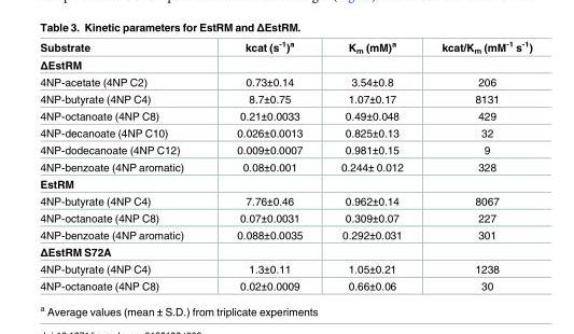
<table><thead><tr><td>Substrate</td><td>kcat (s<sup>-1</sup>)<sup>a</sup></td><td>K<sub>m</sub> (mM)<sup>a</sup></td><td>kcat/K<sub>m</sub> (mM<sup>-1</sup> s<sup>-1</sup>)</td></tr></thead><tbody><tr><td colspan="4">ΔEstRM</td></tr><tr><td>4NP-acetate (4NP C2)</td><td>0.73±0.14</td><td>3.54±0.8</td><td>206</td></tr><tr><td>4NP-butyrate (4NP C4)</td><td>8.7±0.75</td><td>1.07±0.17</td><td>8131</td></tr><tr><td>4NP-octanoate (4NP C8)</td><td>0.21±0.0033</td><td>0.49±0.048</td><td>429</td></tr><tr><td>4NP-decanoate (4NP C10)</td><td>0.026±0.0013</td><td>0.825±0.13</td><td>32</td></tr><tr><td>4NP-dodecanoate (4NP C12)</td><td>0.009±0.0007</td><td>0.981±0.15</td><td>9</td></tr><tr><td>4NP-benzoate (4NP aromatic)</td><td>0.08±0.001</td><td>0.244± 0.012</td><td>328</td></tr><tr><td colspan="4">EstRM</td></tr><tr><td>4NP-butyrate (4NP C4)</td><td>7.76±0.46</td><td>0.962±0.14</td><td>8067</td></tr><tr><td>4NP-octanoate (4NP C8)</td><td>0.07±0.0031</td><td>0.309±0.07</td><td>227</td></tr><tr><td>4NP-benzoate (4NP aromatic)</td><td>0.088±0.0035</td><td>0.292±0.031</td><td>301</td></tr><tr><td colspan="4">ΔEstRM S72A</td></tr><tr><td>4NP-butyrate (4NP C4)</td><td>1.3±0.11</td><td>1.05±0.21</td><td>1238</td></tr><tr><td>4NP-octanoate (4NP C8)</td><td>0.02±0.0009</td><td>0.66±0.06</td><td>30</td></tr></tbody></table>